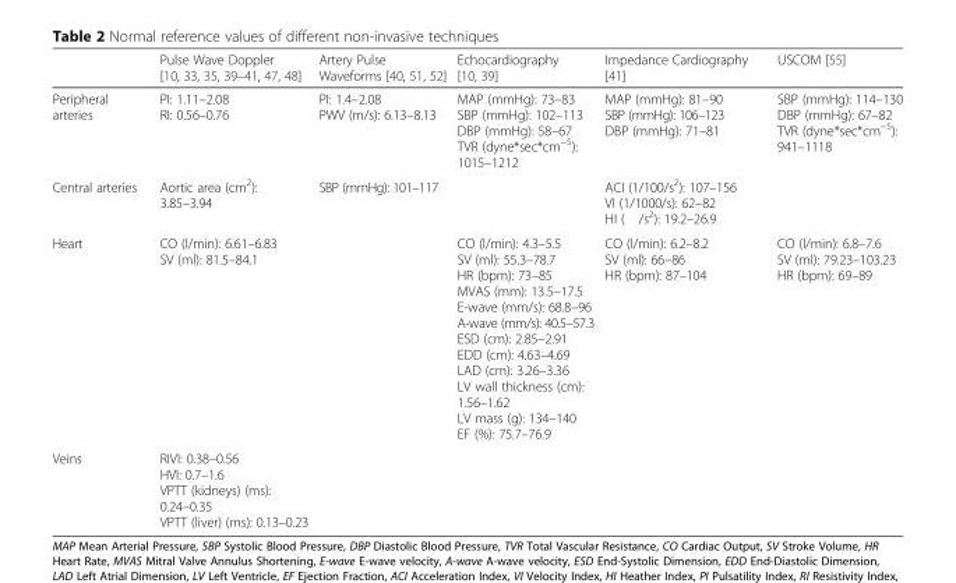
<table><thead><tr><td></td><td>Pulse Wave Doppler [10, 33, 35, 39–41, 47, 48]</td><td>Artery Pulse Waveforms [40, 51, 52]</td><td>Echocardiography [10, 39]</td><td>Impedance Cardiography [41]</td><td>USCOM [55]</td></tr></thead><tbody><tr><td>Peripheral arteries</td><td>PI: 1.11–2.08 RI: 0.56–0.76</td><td>PI: 1.4–2.08 PWV (m/s): 6.13–8.13</td><td>MAP (mmHg): 73–83 SBP (mmHg): 102–113 DBP (mmHg): 58–67 TVR (dyne*sec*cm<sup>−5</sup>): 1015–1212</td><td>MAP (mmHg): 81–90 SBP (mmHg): 106–123 DBP (mmHg): 71–81</td><td>SBP (mmHg): 114–130 DBP (mmHg): 67–82 TVR (dyne*sec*cm<sup>−5</sup>): 941–1118</td></tr><tr><td>Central arteries</td><td>Aortic area (cm<sup>2</sup>): 3.85–3.94</td><td>SBP (mmHg): 101–117</td><td></td><td>ACI (1/100/s2): 107–156 VI (1/1000/s): 62–82 HI ( /s2): 19.2–26.9</td><td></td></tr><tr><td>Heart</td><td>CO (l/min): 6.61–6.83 SV (ml): 81.5–84.1</td><td></td><td>CO (l/min): 4.3–5.5 SV (ml): 55.3–78.7 HR (bpm): 73–85 MVAS (mm): 13.5–17.5 E-wave (mm/s): 68.8–96 A-wave (mm/s): 40.5–57.3 ESD (cm): 2.85–2.91 EDD (cm): 4.63–4.69 LAD (cm): 3.26–3.36 LV wall thickness (cm): 1.56–1.62 LV mass (g): 134–140 EF (%): 75.7–76.9</td><td>CO (l/min): 6.2–8.2 SV (ml): 66–86 HR (bpm): 87–104</td><td>CO (l/min): 6.8–7.6 SV (ml): 79.23–103.23 HR (bpm): 69–89</td></tr><tr><td>Veins</td><td>RIVI: 0.38–0.56 HVI: 0.7–1.6 VPTT (kidneys) (ms): 0.24–0.35 VPTT (liver) (ms): 0.13–0.23</td><td></td><td></td><td></td><td></td></tr></tbody></table>